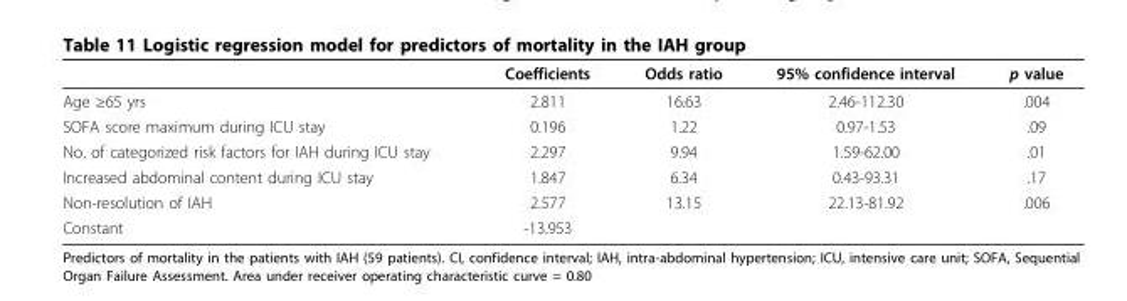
<table><thead><tr><td></td><td>Coefficients</td><td>Odds ratio</td><td>95% confidence interval</td><td>p value</td></tr></thead><tbody><tr><td>Age ≥65 yrs</td><td>2.811</td><td>16.63</td><td>2.46-112.30</td><td>.004</td></tr><tr><td>SOFA score maximum during ICU stay</td><td>0.196</td><td>1.22</td><td>0.97-1.53</td><td>.09</td></tr><tr><td>No. of categorized risk factors for IAH during ICU stay</td><td>2.297</td><td>9.94</td><td>1.59-62.00</td><td>.01</td></tr><tr><td>Increased abdominal content during ICU stay</td><td>1.847</td><td>6.34</td><td>0.43-93.31</td><td>.17</td></tr><tr><td>Non-resolution of IAH</td><td>2.577</td><td>13.15</td><td>22.13-81.92</td><td>.006</td></tr><tr><td>Constant</td><td>-13.953</td><td></td><td></td><td></td></tr></tbody></table>